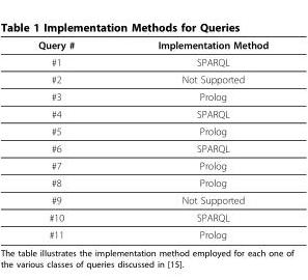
<table><thead><tr><td>Query #</td><td>Implementation Method</td></tr></thead><tbody><tr><td>#1</td><td>SPARQL</td></tr><tr><td>#2</td><td>Not Supported</td></tr><tr><td>#3</td><td>Prolog</td></tr><tr><td>#4</td><td>SPARQL</td></tr><tr><td>#5</td><td>Prolog</td></tr><tr><td>#6</td><td>SPARQL</td></tr><tr><td>#7</td><td>Prolog</td></tr><tr><td>#8</td><td>Prolog</td></tr><tr><td>#9</td><td>Not Supported</td></tr><tr><td>#10</td><td>SPARQL</td></tr><tr><td>#11</td><td>Prolog</td></tr></tbody></table>